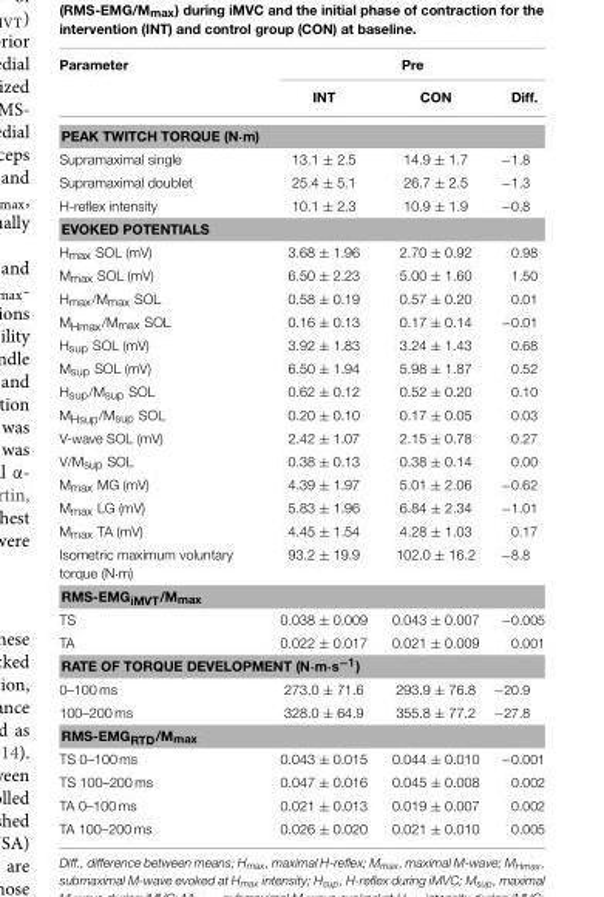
<table><thead><tr><td rowspan="2">Parameter</td><td colspan="3">Pre</td></tr><tr><td>INT</td><td>CON</td><td>Diff.</td></tr></thead><tbody><tr><td colspan="4">PEAK TWITCH TORQUE (N·m)</td></tr><tr><td>Supramaximal single</td><td>13.1 ± 2.5</td><td>14.9 ± 1.7</td><td>−1.8</td></tr><tr><td>Supramaximal doublet</td><td>25.4 ± 5.1</td><td>26.7 ± 2.5</td><td>−1.3</td></tr><tr><td>H-reflex intensity</td><td>10.1 ± 2.3</td><td>10.9 ± 1.9</td><td>−0.8</td></tr><tr><td colspan="4">EVOKED POTENTIALS</td></tr><tr><td>H<sub>max</sub> SOL (mV)</td><td>3.68 ± 1.96</td><td>2.70 ± 0.92</td><td>0.98</td></tr><tr><td>M<sub>max</sub> SOL (mV)</td><td>6.50 ± 2.23</td><td>5.00 ± 1.60</td><td>1.50</td></tr><tr><td>H<sub>max</sub>/M<sub>max</sub> SOL</td><td>0.58 ± 0.19</td><td>0.57 ± 0.20</td><td>0.01</td></tr><tr><td>M<sub>Hmax</sub>/M<sub>max</sub> SOL</td><td>0.16 ± 0.13</td><td>0.17 ± 0.14</td><td>−0.01</td></tr><tr><td>H<sub>sup</sub> SOL (mV)</td><td>3.92 ± 1.83</td><td>3.24 ± 1.43</td><td>0.68</td></tr><tr><td>M<sub>sup</sub> SOL (mV)</td><td>6.50 ± 1.94</td><td>5.98 ± 1.87</td><td>0.52</td></tr><tr><td>H<sub>sup</sub>/M<sub>sup</sub> SOL</td><td>0.62 ± 0.12</td><td>0.52 ± 0.20</td><td>0.10</td></tr><tr><td>M<sub>Hsup</sub>/M<sub>sup</sub> SOL</td><td>0.20 ± 0.10</td><td>0.17 ± 0.05</td><td>0.03</td></tr><tr><td>V-wave SOL (mV)</td><td>2.42 ± 1.07</td><td>2.15 ± 0.78</td><td>0.27</td></tr><tr><td>V/M<sub>sup</sub> SOL</td><td>0.38 ± 0.13</td><td>0.38 ± 0.14</td><td>0.00</td></tr><tr><td>M<sub>max</sub> MG (mV)</td><td>4.39 ± 1.97</td><td>5.01 ± 2.06</td><td>−0.62</td></tr><tr><td>M<sub>max</sub> LG (mV)</td><td>5.83 ± 1.96</td><td>6.84 ± 2.34</td><td>−1.01</td></tr><tr><td>M<sub>max</sub> TA (mV)</td><td>4.45 ± 1.54</td><td>4.28 ± 1.03</td><td>0.17</td></tr><tr><td>Isometric maximum voluntary torque (N·m)</td><td>93.2 ± 19.9</td><td>102.0 ± 16.2</td><td>−8.8</td></tr><tr><td colspan="4">RMS-EMG<sub>iMVT</sub>/M<sub>max</sub></td></tr><tr><td>TS</td><td>0.038 ± 0.009</td><td>0.043 ± 0.007</td><td>−0.005</td></tr><tr><td>TA</td><td>0.022 ± 0.017</td><td>0.021 ± 0.009</td><td>0.001</td></tr><tr><td colspan="4">RATE OF TORQUE DEVELOPMENT (N·m·s<sup>−1</sup>)</td></tr><tr><td>0–100 ms</td><td>273.0 ± 71.6</td><td>293.9 ± 76.8</td><td>−20.9</td></tr><tr><td>100–200 ms</td><td>328.0 ± 64.9</td><td>355.8 ± 77.2</td><td>−27.8</td></tr><tr><td colspan="4">RMS-EMG<sub>RTD</sub>/M<sub>max</sub></td></tr><tr><td>TS 0–100 ms</td><td>0.043 ± 0.015</td><td>0.044 ± 0.010</td><td>−0.001</td></tr><tr><td>TS 100–200 ms</td><td>0.047 ± 0.016</td><td>0.045 ± 0.008</td><td>0.002</td></tr><tr><td>TA 0–100 ms</td><td>0.021 ± 0.013</td><td>0.019 ± 0.007</td><td>0.002</td></tr><tr><td>TA 100–200 ms</td><td>0.026 ± 0.020</td><td>0.021 ± 0.010</td><td>0.005</td></tr></tbody></table>